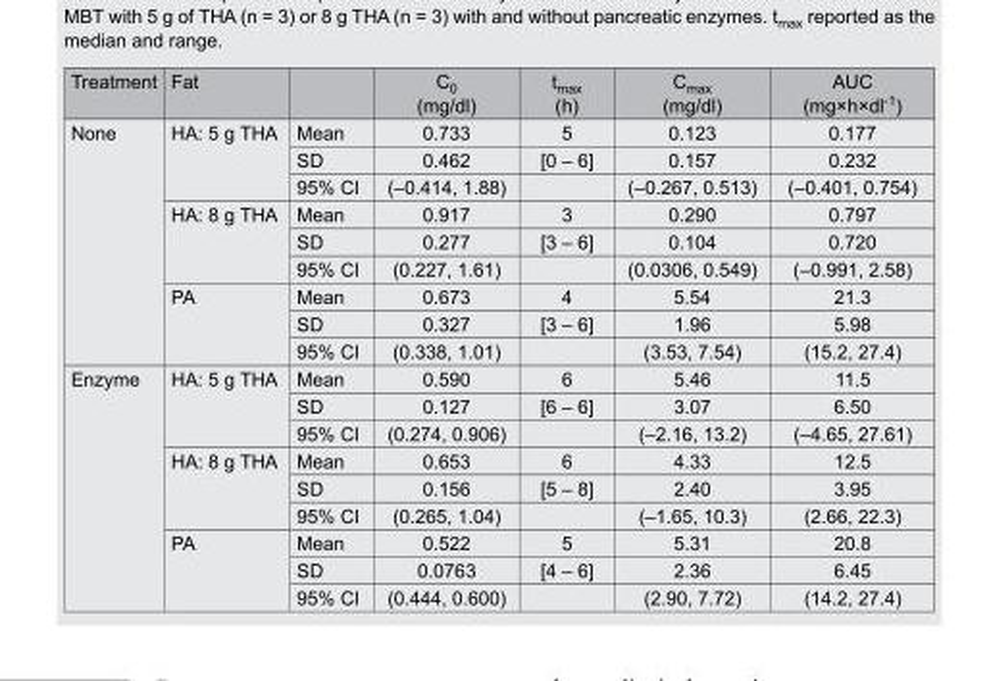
<table><thead><tr><td>Treatment</td><td>Fat</td><td></td><td>C<sub>0</sub> (mg/dl)</td><td>t<sub>max</sub> (h)</td><td>C<sub>max</sub> (mg/dl)</td><td>AUC (mg×h×dl<sup>-1</sup>)</td></tr></thead><tbody><tr><td rowspan="9">None</td><td rowspan="3">HA: 5 g THA</td><td>Mean</td><td>0.733</td><td>5</td><td>0.123</td><td>0.177</td></tr><tr><td>SD</td><td>0.462</td><td>[0 – 6]</td><td>0.157</td><td>0.232</td></tr><tr><td>95% CI</td><td>(–0.414, 1.88)</td><td></td><td>(–0.267, 0.513)</td><td>(–0.401, 0.754)</td></tr><tr><td rowspan="3">HA: 8 g THA</td><td>Mean</td><td>0.917</td><td>3</td><td>0.290</td><td>0.797</td></tr><tr><td>SD</td><td>0.277</td><td>[3 – 6]</td><td>0.104</td><td>0.720</td></tr><tr><td>95% CI</td><td>(0.227, 1.61)</td><td></td><td>(0.0306, 0.549)</td><td>(–0.991, 2.58)</td></tr><tr><td rowspan="3">PA</td><td>Mean</td><td>0.673</td><td>4</td><td>5.54</td><td>21.3</td></tr><tr><td>SD</td><td>0.327</td><td>[3 – 6]</td><td>1.96</td><td>5.98</td></tr><tr><td>95% CI</td><td>(0.338, 1.01)</td><td></td><td>(3.53, 7.54)</td><td>(15.2, 27.4)</td></tr><tr><td rowspan="9">Enzyme</td><td rowspan="3">HA: 5 g THA</td><td>Mean</td><td>0.590</td><td>6</td><td>5.46</td><td>11.5</td></tr><tr><td>SD</td><td>0.127</td><td>[6 – 6]</td><td>3.07</td><td>6.50</td></tr><tr><td>95% CI</td><td>(0.274, 0.906)</td><td></td><td>(–2.16, 13.2)</td><td>(–4.65, 27.61)</td></tr><tr><td rowspan="3">HA: 8 g THA</td><td>Mean</td><td>0.653</td><td>6</td><td>4.33</td><td>12.5</td></tr><tr><td>SD</td><td>0.156</td><td>[5 – 8]</td><td>2.40</td><td>3.95</td></tr><tr><td>95% CI</td><td>(0.265, 1.04)</td><td></td><td>(–1.65, 10.3)</td><td>(2.66, 22.3)</td></tr><tr><td rowspan="3">PA</td><td>Mean</td><td>0.522</td><td>5</td><td>5.31</td><td>20.8</td></tr><tr><td>SD</td><td>0.0763</td><td>[4 – 6]</td><td>2.36</td><td>6.45</td></tr><tr><td>95% CI</td><td>(0.444, 0.600)</td><td></td><td>(2.90, 7.72)</td><td>(14.2, 27.4)</td></tr></tbody></table>